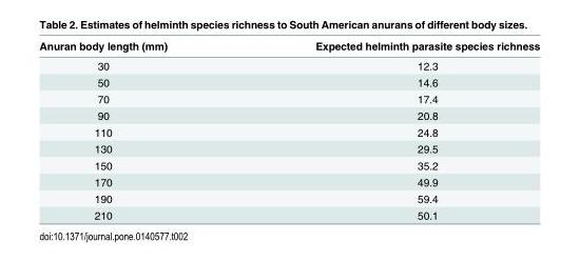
<table><thead><tr><td>Anuran body length (mm)</td><td>Expected helminth parasite species richness</td></tr></thead><tbody><tr><td>30</td><td>12.3</td></tr><tr><td>50</td><td>14.6</td></tr><tr><td>70</td><td>17.4</td></tr><tr><td>90</td><td>20.8</td></tr><tr><td>110</td><td>24.8</td></tr><tr><td>130</td><td>29.5</td></tr><tr><td>150</td><td>35.2</td></tr><tr><td>170</td><td>49.9</td></tr><tr><td>190</td><td>59.4</td></tr><tr><td>210</td><td>50.1</td></tr></tbody></table>